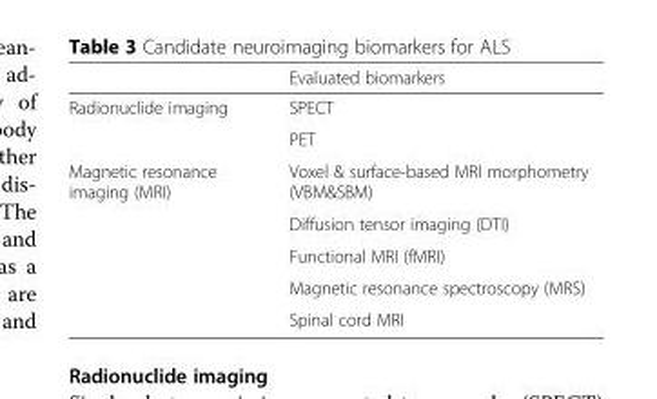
<table><thead><tr><td></td><td>Evaluated biomarkers</td></tr></thead><tbody><tr><td rowspan="2">Radionuclide imaging</td><td>SPECT</td></tr><tr><td>PET</td></tr><tr><td rowspan="5">Magnetic resonance imaging (MRI)</td><td>Voxel &amp; surface-based MRI morphometry (VBM&amp;SBM)</td></tr><tr><td>Diffusion tensor imaging (DTI)</td></tr><tr><td>Functional MRI (fMRI)</td></tr><tr><td>Magnetic resonance spectroscopy (MRS)</td></tr><tr><td>Spinal cord MRI</td></tr></tbody></table>